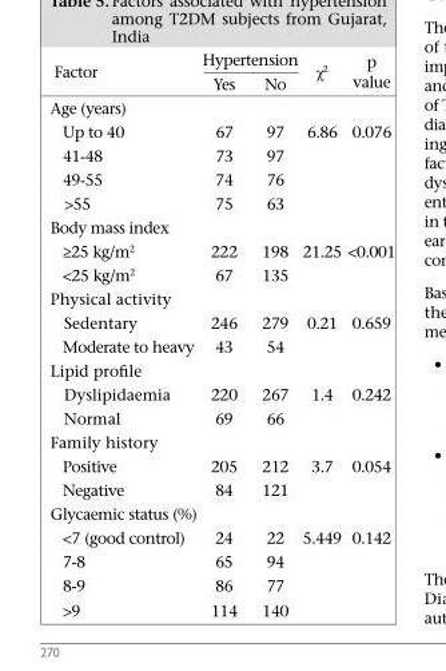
<table><thead><tr><td rowspan="2">Factor</td><td colspan="2">Hypertension</td><td rowspan="2">χ<sup>2</sup></td><td rowspan="2">p value</td></tr><tr><td>Yes</td><td>No</td></tr></thead><tbody><tr><td colspan="5">Age (years)</td></tr><tr><td>Up to 40</td><td>67</td><td>97</td><td>6.86</td><td>0.076</td></tr><tr><td>41-48</td><td>73</td><td>97</td><td></td><td></td></tr><tr><td>49-55</td><td>74</td><td>76</td><td></td><td></td></tr><tr><td>&gt;55</td><td>75</td><td>63</td><td></td><td></td></tr><tr><td colspan="5">Body mass index</td></tr><tr><td>≥25 kg/m<sup>2</sup></td><td>222</td><td>198</td><td>21.25</td><td>&lt;0.001</td></tr><tr><td>&lt;25 kg/m<sup>2</sup></td><td>67</td><td>135</td><td></td><td></td></tr><tr><td colspan="5">Physical activity</td></tr><tr><td>Sedentary</td><td>246</td><td>279</td><td>0.21</td><td>0.659</td></tr><tr><td>Moderate to heavy</td><td>43</td><td>54</td><td></td><td></td></tr><tr><td colspan="5">Lipid profile</td></tr><tr><td>Dyslipidaemia</td><td>220</td><td>267</td><td>1.4</td><td>0.242</td></tr><tr><td>Normal</td><td>69</td><td>66</td><td></td><td></td></tr><tr><td colspan="5">Family history</td></tr><tr><td>Positive</td><td>205</td><td>212</td><td>3.7</td><td>0.054</td></tr><tr><td>Negative</td><td>84</td><td>121</td><td></td><td></td></tr><tr><td colspan="5">Glycaemic status (%)</td></tr><tr><td>&lt;7 (good control)</td><td>24</td><td>22</td><td>5.449</td><td>0.142</td></tr><tr><td>7-8</td><td>65</td><td>94</td><td></td><td></td></tr><tr><td>8-9</td><td>86</td><td>77</td><td></td><td></td></tr><tr><td>&gt;9</td><td>114</td><td>140</td><td></td><td></td></tr></tbody></table>